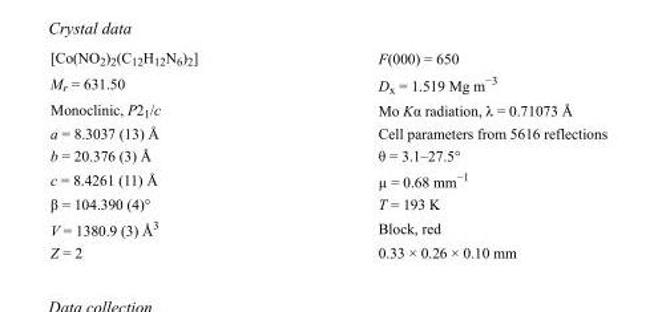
<table><tbody><tr><td>[Co(NO<sub>2</sub>)<sub>2</sub>(C<sub>12</sub>H<sub>12</sub>N<sub>6</sub>)<sub>2</sub>]</td><td>F(000) = 650</td></tr><tr><td>M<sub>r</sub> = 631.50</td><td>D<sub>x</sub> = 1.519 Mg m<sup>−3</sup></td></tr><tr><td>Monoclinic, P2<sub>1</sub>/c</td><td>Mo Kα radiation, λ = 0.71073 Å</td></tr><tr><td>a = 8.3037 (13) Å</td><td>Cell parameters from 5616 reflections</td></tr><tr><td>b = 20.376 (3) Å</td><td>θ = 3.1–27.5°</td></tr><tr><td>c = 8.4261 (11) Å</td><td>µ = 0.68 mm<sup>−1</sup></td></tr><tr><td>β = 104.390 (4)°</td><td>T = 193 K</td></tr><tr><td>V = 1380.9 (3) Å<sup>3</sup></td><td>Block, red</td></tr><tr><td>Z = 2</td><td>0.33 × 0.26 × 0.10 mm</td></tr></tbody></table>